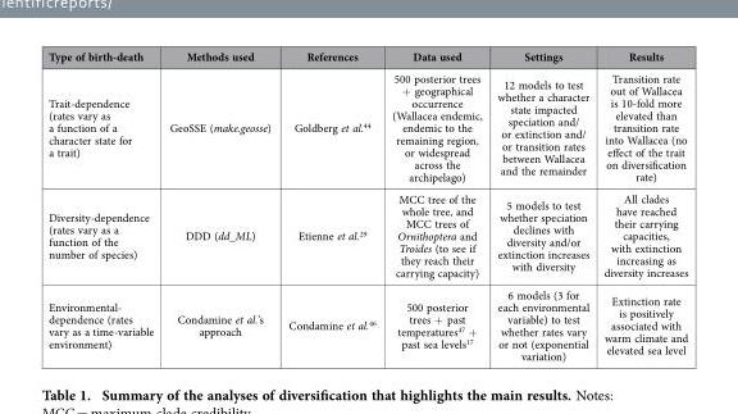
<table><thead><tr><td>Type of birth-death</td><td>Methods used</td><td>References</td><td>Data used</td><td>Settings</td><td>Results</td></tr></thead><tbody><tr><td>Trait-dependence (rates vary as a function of a character state for a trait)</td><td>GeoSSE (make.geosse)</td><td>Goldberg et al.<sup>44</sup></td><td>500 posterior trees + geographical occurrence (Wallacea endemic, endemic to the remaining region, or widespread across the archipelago)</td><td>12 models to test whether a character state impacted speciation and/ or extinction and/ or transition rates between Wallacea and the remainder</td><td>Transition rate out of Wallacea is 10-fold more elevated than transition rate into Wallacea (no effect of the trait on diversification rate)</td></tr><tr><td>Diversity-dependence (rates vary as a function of the number of species)</td><td>DDD (dd_ML)</td><td>Etienne et al.<sup>29</sup></td><td>MCC tree of the whole tree, and MCC trees of Ornithoptera and Troides (to see if they reach their carrying capacity)</td><td>5 models to test whether speciation declines with diversity and/or extinction increases with diversity</td><td>All clades have reached their carrying capacities, with extinction increasing as diversity increases</td></tr><tr><td>Environmental- dependence (rates vary as a time-variable environment)</td><td>Condamine et al.’s approach</td><td>Condamine et al.<sup>46</sup></td><td>500 posterior trees + past temperatures<sup>47</sup> + past sea levels<sup>17</sup></td><td>6 models (3 for each environmental variable) to test whether rates vary or not (exponential variation)</td><td>Extinction rate is positively associated with warm climate and elevated sea level</td></tr></tbody></table>